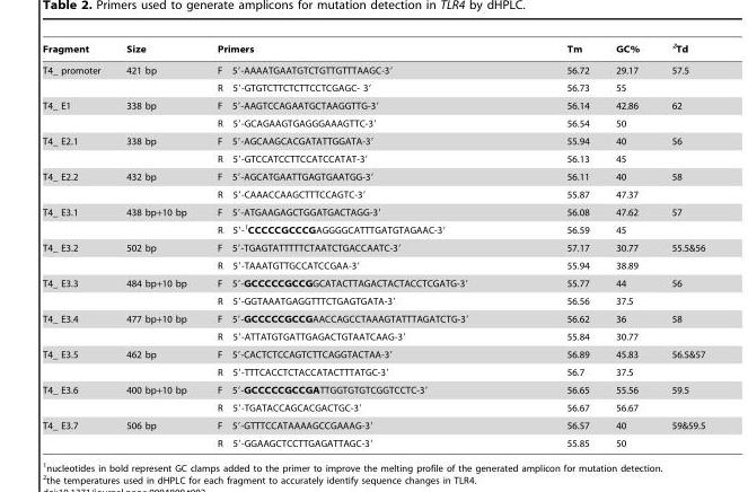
<table><thead><tr><td>Fragment</td><td>Size</td><td>Primers</td><td>Tm</td><td>GC%</td><td>2Td</td></tr></thead><tbody><tr><td rowspan="2">T4_ promoter</td><td>421 bp</td><td>F 5′-AAAATGAATGTCTGTTGTTTAAGC-3′</td><td>56.72</td><td>29.17</td><td>57.5</td></tr><tr><td></td><td>R 5′-GTGTCTTCTCTTCCTCGAGC- 3′</td><td>56.73</td><td>55</td><td></td></tr><tr><td rowspan="2">T4_ E1</td><td>338 bp</td><td>F 5′-AAGTCCAGAATGCTAAGGTTG-3′</td><td>56.14</td><td>42.86</td><td>62</td></tr><tr><td></td><td>R 5′-GCAGAAGTGAGGGAAAGTTC-3′</td><td>56.54</td><td>50</td><td></td></tr><tr><td rowspan="2">T4_ E2.1</td><td>338 bp</td><td>F 5′-AGCAAGCACGATATTGGATA-3′</td><td>55.94</td><td>40</td><td>56</td></tr><tr><td></td><td>R 5′-GTCCATCCTTCCATCCATAT-3′</td><td>56.13</td><td>45</td><td></td></tr><tr><td rowspan="2">T4_ E2.2</td><td>432 bp</td><td>F 5′-AGCATGAATTGAGTGAATGG-3′</td><td>56.11</td><td>40</td><td>58</td></tr><tr><td></td><td>R 5′-CAAACCAAGCTTTCCAGTC-3′</td><td>55.87</td><td>47.37</td><td></td></tr><tr><td rowspan="2">T4_ E3.1</td><td>438 bp+10 bp</td><td>F 5′-ATGAAGAGCTGGATGACTAGG-3′</td><td>56.08</td><td>47.62</td><td>57</td></tr><tr><td></td><td>R 5′-1CCCCCGCCCGAGGGGCATTTGATGTAGAAC-3′</td><td>56.59</td><td>45</td><td></td></tr><tr><td rowspan="2">T4_ E3.2</td><td>502 bp</td><td>F 5′-TGAGTATTTTTCTAATCTGACCAATC-3′</td><td>57.17</td><td>30.77</td><td>55.5&amp;56</td></tr><tr><td></td><td>R 5′-TAAATGTTGCCATCCGAA-3′</td><td>55.94</td><td>38.89</td><td></td></tr><tr><td rowspan="2">T4_ E3.3</td><td>484 bp+10 bp</td><td>F 5′-GCCCCCGCCGGCATACTTAGACTACTACCTCGATG-3′</td><td>55.77</td><td>44</td><td>56</td></tr><tr><td></td><td>R 5′-GGTAAATGAGGTTTCTGAGTGATA-3′</td><td>56.56</td><td>37.5</td><td></td></tr><tr><td rowspan="2">T4_ E3.4</td><td>477 bp+10 bp</td><td>F 5′-GCCCCCGCCGAACCAGCCTAAAGTATTTAGATCTG-3′</td><td>56.62</td><td>36</td><td>58</td></tr><tr><td></td><td>R 5′-ATTATGTGATTGAGACTGTAATCAAG-3′</td><td>55.84</td><td>30.77</td><td></td></tr><tr><td rowspan="2">T4_ E3.5</td><td>462 bp</td><td>F 5′-CACTCTCCAGTCTTCAGGTACTAA-3′</td><td>56.89</td><td>45.83</td><td>56.5&amp;57</td></tr><tr><td></td><td>R 5′-TTTCACCTCTACCATACTTTATGC-3′</td><td>56.7</td><td>37.5</td><td></td></tr><tr><td rowspan="2">T4_ E3.6</td><td>400 bp+10 bp</td><td>F 5′-GCCCCCGCCGATTGGTGTGTCGGTCCTC-3′</td><td>56.65</td><td>55.56</td><td>59.5</td></tr><tr><td></td><td>R 5′-TGATACCAGCACGACTGC-3′</td><td>56.67</td><td>56.67</td><td></td></tr><tr><td rowspan="2">T4_ E3.7</td><td>506 bp</td><td>F 5′-GTTTCCATAAAAGCCGAAAG-3′</td><td>56.57</td><td>40</td><td>59&amp;59.5</td></tr><tr><td></td><td>R 5′-GGAAGCTCCTTGAGATTAGC-3′</td><td>55.85</td><td>50</td><td></td></tr></tbody></table>